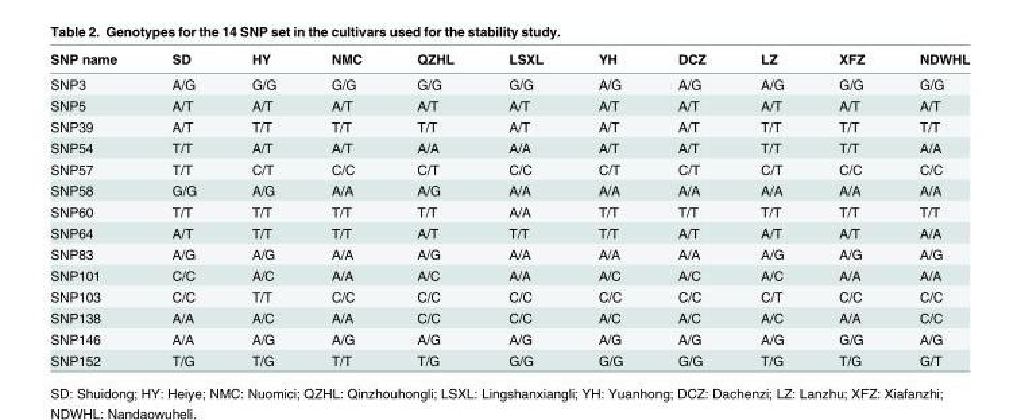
<table><thead><tr><td>SNP name</td><td>SD</td><td>HY</td><td>NMC</td><td>QZHL</td><td>LSXL</td><td>YH</td><td>DCZ</td><td>LZ</td><td>XFZ</td><td>NDWHL</td></tr></thead><tbody><tr><td>SNP3</td><td>A/G</td><td>G/G</td><td>G/G</td><td>G/G</td><td>G/G</td><td>A/G</td><td>A/G</td><td>A/G</td><td>G/G</td><td>G/G</td></tr><tr><td>SNP5</td><td>A/T</td><td>A/T</td><td>A/T</td><td>A/T</td><td>A/T</td><td>A/T</td><td>A/T</td><td>A/T</td><td>A/T</td><td>A/T</td></tr><tr><td>SNP39</td><td>A/T</td><td>T/T</td><td>T/T</td><td>T/T</td><td>A/T</td><td>A/T</td><td>A/T</td><td>T/T</td><td>T/T</td><td>T/T</td></tr><tr><td>SNP54</td><td>T/T</td><td>A/T</td><td>A/T</td><td>A/A</td><td>A/A</td><td>A/T</td><td>A/T</td><td>T/T</td><td>T/T</td><td>A/A</td></tr><tr><td>SNP57</td><td>T/T</td><td>C/T</td><td>C/C</td><td>C/T</td><td>C/C</td><td>C/T</td><td>C/T</td><td>C/T</td><td>C/C</td><td>C/C</td></tr><tr><td>SNP58</td><td>G/G</td><td>A/G</td><td>A/A</td><td>A/G</td><td>A/A</td><td>A/A</td><td>A/A</td><td>A/A</td><td>A/A</td><td>A/A</td></tr><tr><td>SNP60</td><td>T/T</td><td>T/T</td><td>T/T</td><td>T/T</td><td>A/A</td><td>T/T</td><td>T/T</td><td>T/T</td><td>T/T</td><td>T/T</td></tr><tr><td>SNP64</td><td>A/T</td><td>T/T</td><td>T/T</td><td>A/T</td><td>T/T</td><td>T/T</td><td>A/T</td><td>A/T</td><td>A/T</td><td>A/A</td></tr><tr><td>SNP83</td><td>A/G</td><td>A/G</td><td>A/A</td><td>A/G</td><td>A/A</td><td>A/A</td><td>A/A</td><td>A/G</td><td>A/G</td><td>A/G</td></tr><tr><td>SNP101</td><td>C/C</td><td>A/C</td><td>A/A</td><td>A/C</td><td>A/A</td><td>A/C</td><td>A/C</td><td>A/C</td><td>A/A</td><td>A/A</td></tr><tr><td>SNP103</td><td>C/C</td><td>T/T</td><td>C/C</td><td>C/C</td><td>C/C</td><td>C/C</td><td>C/C</td><td>C/T</td><td>C/C</td><td>C/C</td></tr><tr><td>SNP138</td><td>A/A</td><td>A/C</td><td>A/A</td><td>C/C</td><td>C/C</td><td>A/C</td><td>A/C</td><td>A/C</td><td>A/A</td><td>C/C</td></tr><tr><td>SNP146</td><td>A/A</td><td>A/G</td><td>A/G</td><td>A/G</td><td>A/G</td><td>A/G</td><td>A/G</td><td>A/G</td><td>G/G</td><td>A/G</td></tr><tr><td>SNP152</td><td>T/G</td><td>T/G</td><td>T/T</td><td>T/G</td><td>G/G</td><td>G/G</td><td>G/G</td><td>T/G</td><td>T/G</td><td>G/T</td></tr></tbody></table>